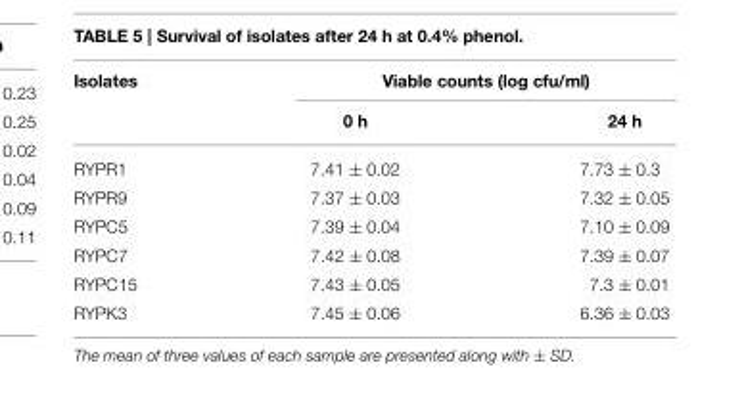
<table><thead><tr><td rowspan="2">Isolates</td><td colspan="2">Viable counts (log cfu/ml)</td></tr><tr><td>0 h</td><td>24 h</td></tr></thead><tbody><tr><td>RYPR1</td><td>7.41 ± 0.02</td><td>7.73 ± 0.3</td></tr><tr><td>RYPR9</td><td>7.37 ± 0.03</td><td>7.32 ± 0.05</td></tr><tr><td>RYPC5</td><td>7.39 ± 0.04</td><td>7.10 ± 0.09</td></tr><tr><td>RYPC7</td><td>7.42 ± 0.08</td><td>7.39 ± 0.07</td></tr><tr><td>RYPC15</td><td>7.43 ± 0.05</td><td>7.3 ± 0.01</td></tr><tr><td>RYPK3</td><td>7.45 ± 0.06</td><td>6.36 ± 0.03</td></tr></tbody></table>